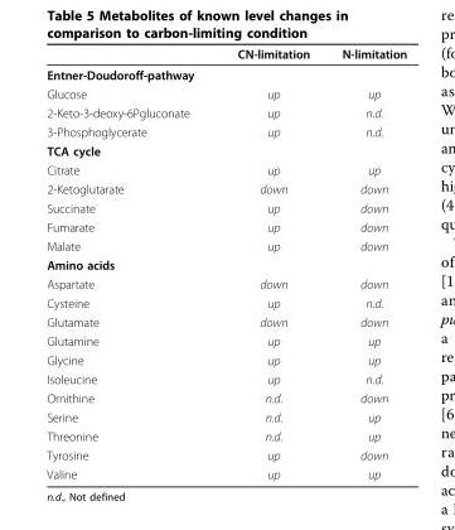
<table><thead><tr><td></td><td>CN-limitation</td><td>N-limitation</td></tr></thead><tbody><tr><td colspan="3">Entner-Doudoroff-pathway</td></tr><tr><td>Glucose</td><td>up</td><td>up</td></tr><tr><td>2-Keto-3-deoxy-6Pgluconate</td><td>up</td><td>n.d.</td></tr><tr><td>3-Phosphoglycerate</td><td>up</td><td>n.d.</td></tr><tr><td colspan="3">TCA cycle</td></tr><tr><td>Citrate</td><td>up</td><td>up</td></tr><tr><td>2-Ketoglutarate</td><td>down</td><td>down</td></tr><tr><td>Succinate</td><td>up</td><td>down</td></tr><tr><td>Fumarate</td><td>up</td><td>down</td></tr><tr><td>Malate</td><td>up</td><td>down</td></tr><tr><td colspan="3">Amino acids</td></tr><tr><td>Aspartate</td><td>down</td><td>down</td></tr><tr><td>Cysteine</td><td>up</td><td>n.d.</td></tr><tr><td>Glutamate</td><td>down</td><td>down</td></tr><tr><td>Glutamine</td><td>up</td><td>up</td></tr><tr><td>Glycine</td><td>up</td><td>up</td></tr><tr><td>Isoleucine</td><td>up</td><td>n.d.</td></tr><tr><td>Ornithine</td><td>n.d.</td><td>down</td></tr><tr><td>Serine</td><td>n.d.</td><td>up</td></tr><tr><td>Threonine</td><td>n.d.</td><td>up</td></tr><tr><td>Tyrosine</td><td>up</td><td>down</td></tr><tr><td>Valine</td><td>up</td><td>up</td></tr></tbody></table>